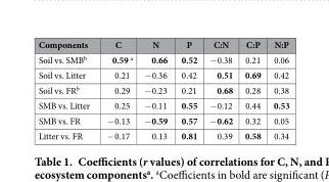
<table><thead><tr><td>Components</td><td>C</td><td>N</td><td>P</td><td>C:N</td><td>C:P</td><td>N:P</td></tr></thead><tbody><tr><td>Soil vs. SMB<sup>b</sup></td><td>0.59 a</td><td>0.66</td><td>0.52</td><td>− 0.38</td><td>0.21</td><td>0.06</td></tr><tr><td>Soil vs. Litter</td><td>0.21</td><td>− 0.36</td><td>0.42</td><td>0.51</td><td>0.69</td><td>0.42</td></tr><tr><td>Soil vs. FR<sup>b</sup></td><td>0.29</td><td>− 0.23</td><td>0.21</td><td>0.68</td><td>0.28</td><td>0.38</td></tr><tr><td>SMB vs. Litter</td><td>0.25</td><td>− 0.11</td><td>0.55</td><td>− 0.12</td><td>0.44</td><td>0.53</td></tr><tr><td>SMB vs. FR</td><td>− 0.13</td><td>− 0.59</td><td>0.57</td><td>− 0.62</td><td>0.32</td><td>0.05</td></tr><tr><td>Litter vs. FR</td><td>− 0.17</td><td>0.13</td><td>0.81</td><td>0.39</td><td>0.58</td><td>0.34</td></tr></tbody></table>